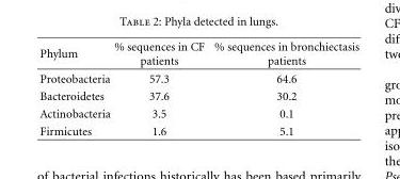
<table><thead><tr><td>Phylum</td><td>% sequences in CF patients</td><td>% sequences in bronchiectasis patients</td></tr></thead><tbody><tr><td>Proteobacteria</td><td>57.3</td><td>64.6</td></tr><tr><td>Bacteroidetes</td><td>37.6</td><td>30.2</td></tr><tr><td>Actinobacteria</td><td>3.5</td><td>0.1</td></tr><tr><td>Firmicutes</td><td>1.6</td><td>5.1</td></tr></tbody></table>